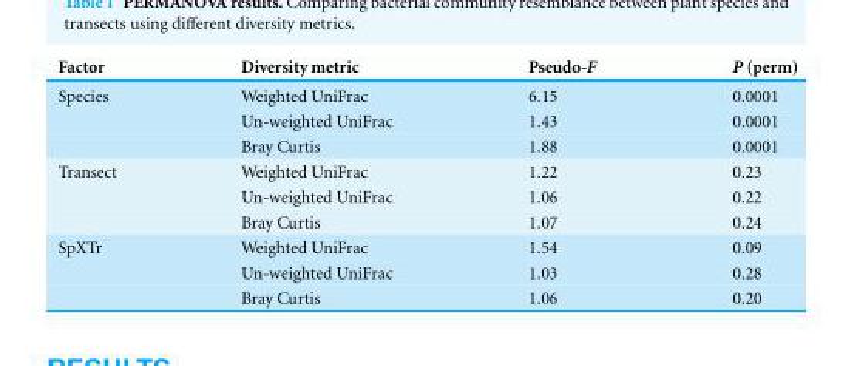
<table><thead><tr><td>Factor</td><td>Diversity metric</td><td>Pseudo-F</td><td>P (perm)</td></tr></thead><tbody><tr><td rowspan="3">Species</td><td>Weighted UniFrac</td><td>6.15</td><td>0.0001</td></tr><tr><td>Un-weighted UniFrac</td><td>1.43</td><td>0.0001</td></tr><tr><td>Bray Curtis</td><td>1.88</td><td>0.0001</td></tr><tr><td rowspan="3">Transect</td><td>Weighted UniFrac</td><td>1.22</td><td>0.23</td></tr><tr><td>Un-weighted UniFrac</td><td>1.06</td><td>0.22</td></tr><tr><td>Bray Curtis</td><td>1.07</td><td>0.24</td></tr><tr><td rowspan="3">SpXTr</td><td>Weighted UniFrac</td><td>1.54</td><td>0.09</td></tr><tr><td>Un-weighted UniFrac</td><td>1.03</td><td>0.28</td></tr><tr><td>Bray Curtis</td><td>1.06</td><td>0.20</td></tr></tbody></table>